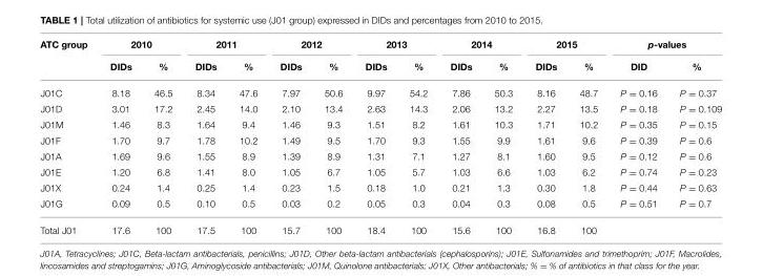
<table><thead><tr><td rowspan="2">ATC group</td><td colspan="2">2010</td><td colspan="2">2011</td><td colspan="2">2012</td><td colspan="2">2013</td><td colspan="2">2014</td><td colspan="2">2015</td><td colspan="2">p-values</td></tr><tr><td>DIDs</td><td>%</td><td>DIDs</td><td>%</td><td>DIDs</td><td>%</td><td>DIDs</td><td>%</td><td>DIDs</td><td>%</td><td>DIDs</td><td>%</td><td>DID</td><td>%</td></tr></thead><tbody><tr><td>J01C</td><td>8.18</td><td>46.5</td><td>8.34</td><td>47.6</td><td>7.97</td><td>50.6</td><td>9.97</td><td>54.2</td><td>7.86</td><td>50.3</td><td>8.16</td><td>48.7</td><td>P = 0.16</td><td>P = 0.37</td></tr><tr><td>J01D</td><td>3.01</td><td>17.2</td><td>2.45</td><td>14.0</td><td>2.10</td><td>13.4</td><td>2.63</td><td>14.3</td><td>2.06</td><td>13.2</td><td>2.27</td><td>13.5</td><td>P = 0.18</td><td>P = 0.109</td></tr><tr><td>J01M</td><td>1.46</td><td>8.3</td><td>1.64</td><td>9.4</td><td>1.46</td><td>9.3</td><td>1.51</td><td>8.2</td><td>1.61</td><td>10.3</td><td>1.71</td><td>10.2</td><td>P = 0.35</td><td>P = 0.15</td></tr><tr><td>J01F</td><td>1.70</td><td>9.7</td><td>1.78</td><td>10.2</td><td>1.49</td><td>9.5</td><td>1.70</td><td>9.3</td><td>1.55</td><td>9.9</td><td>1.61</td><td>9.6</td><td>P = 0.39</td><td>P = 0.6</td></tr><tr><td>J01A</td><td>1.69</td><td>9.6</td><td>1.55</td><td>8.9</td><td>1.39</td><td>8.9</td><td>1.31</td><td>7.1</td><td>1.27</td><td>8.1</td><td>1.60</td><td>9.5</td><td>P = 0.12</td><td>P = 0.6</td></tr><tr><td>J01E</td><td>1.20</td><td>6.8</td><td>1.41</td><td>8.0</td><td>1.05</td><td>6.7</td><td>1.05</td><td>5.7</td><td>1.03</td><td>6.6</td><td>1.03</td><td>6.2</td><td>P = 0.74</td><td>P = 0.23</td></tr><tr><td>J01X</td><td>0.24</td><td>1.4</td><td>0.25</td><td>1.4</td><td>0.23</td><td>1.5</td><td>0.18</td><td>1.0</td><td>0.21</td><td>1.3</td><td>0.30</td><td>1.8</td><td>P = 0.44</td><td>P = 0.63</td></tr><tr><td>J01G</td><td>0.09</td><td>0.5</td><td>0.10</td><td>0.5</td><td>0.03</td><td>0.2</td><td>0.05</td><td>0.3</td><td>0.04</td><td>0.3</td><td>0.08</td><td>0.5</td><td>P = 0.51</td><td>P = 0.7</td></tr><tr><td>Total J01</td><td>17.6</td><td>100</td><td>17.5</td><td>100</td><td>15.7</td><td>100</td><td>18.4</td><td>100</td><td>15.6</td><td>100</td><td>16.8</td><td>100</td><td></td><td></td></tr></tbody></table>